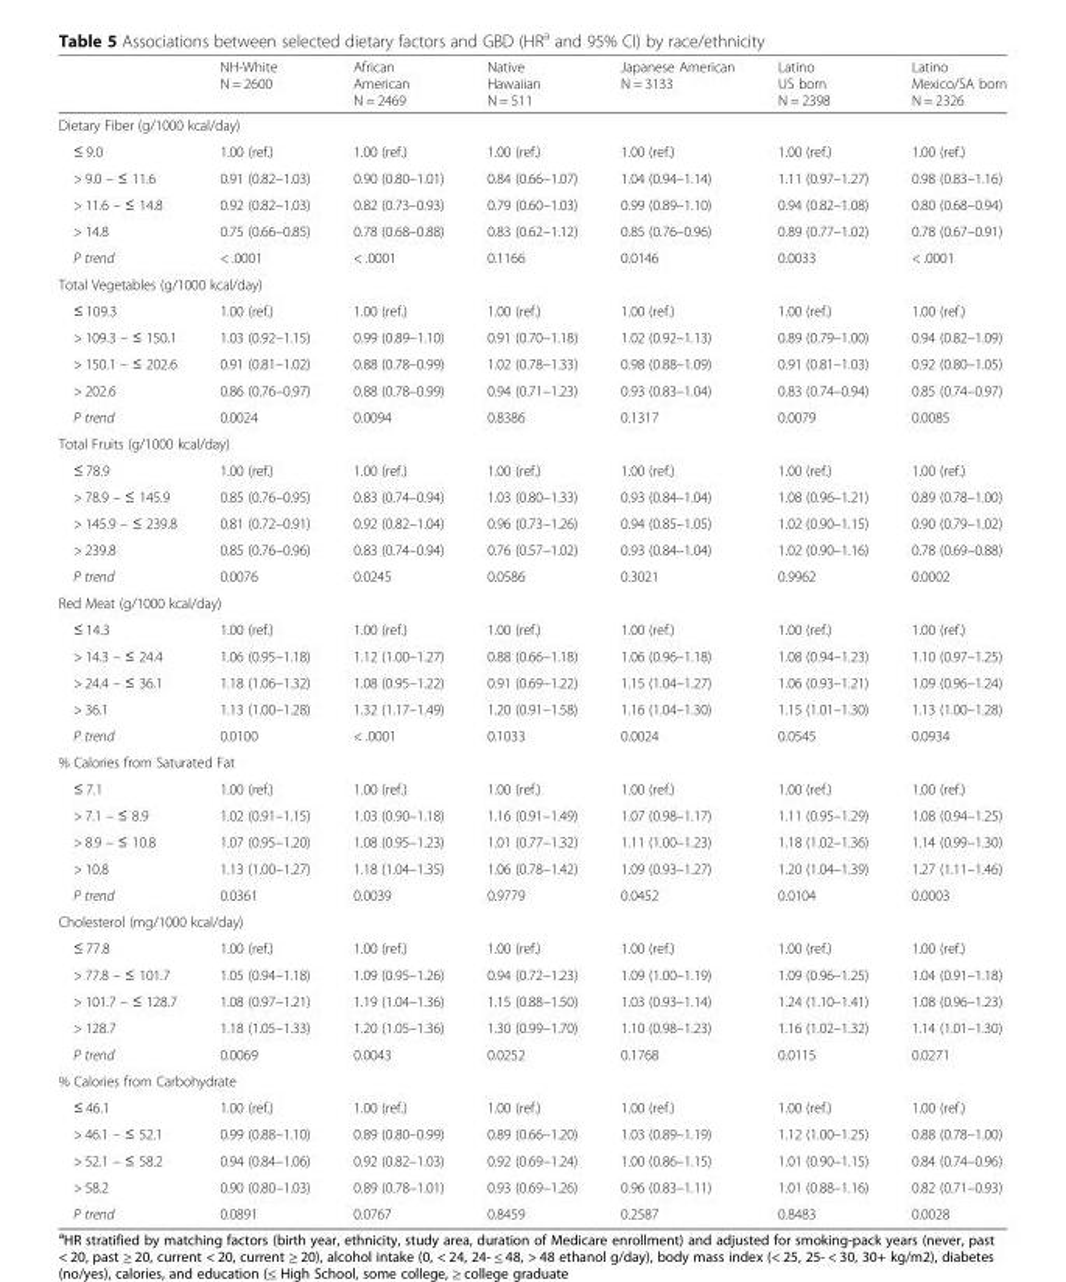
<table><thead><tr><td></td><td>NH-White N = 2600</td><td>African American N = 2469</td><td>Native Hawaiian N = 511</td><td>Japanese American N = 3133</td><td>Latino US born N = 2398</td><td>Latino Mexico/SA born N = 2326</td></tr></thead><tbody><tr><td colspan="7">Dietary Fiber (g/1000 kcal/day)</td></tr><tr><td>≤ 9.0</td><td>1.00 (ref.)</td><td>1.00 (ref.)</td><td>1.00 (ref.)</td><td>1.00 (ref.)</td><td>1.00 (ref.)</td><td>1.00 (ref.)</td></tr><tr><td>&gt; 9.0 – ≤ 11.6</td><td>0.91 (0.82–1.03)</td><td>0.90 (0.80–1.01)</td><td>0.84 (0.66–1.07)</td><td>1.04 (0.94–1.14)</td><td>1.11 (0.97–1.27)</td><td>0.98 (0.83–1.16)</td></tr><tr><td>&gt; 11.6 – ≤ 14.8</td><td>0.92 (0.82–1.03)</td><td>0.82 (0.73–0.93)</td><td>0.79 (0.60–1.03)</td><td>0.99 (0.89–1.10)</td><td>0.94 (0.82–1.08)</td><td>0.80 (0.68–0.94)</td></tr><tr><td>&gt; 14.8</td><td>0.75 (0.66–0.85)</td><td>0.78 (0.68–0.88)</td><td>0.83 (0.62–1.12)</td><td>0.85 (0.76–0.96)</td><td>0.89 (0.77–1.02)</td><td>0.78 (0.67–0.91)</td></tr><tr><td>P trend</td><td>&lt; .0001</td><td>&lt; .0001</td><td>0.1166</td><td>0.0146</td><td>0.0033</td><td>&lt; .0001</td></tr><tr><td colspan="7">Total Vegetables (g/1000 kcal/day)</td></tr><tr><td>≤ 109.3</td><td>1.00 (ref.)</td><td>1.00 (ref.)</td><td>1.00 (ref.)</td><td>1.00 (ref.)</td><td>1.00 (ref.)</td><td>1.00 (ref.)</td></tr><tr><td>&gt; 109.3 – ≤ 150.1</td><td>1.03 (0.92–1.15)</td><td>0.99 (0.89–1.10)</td><td>0.91 (0.70–1.18)</td><td>1.02 (0.92–1.13)</td><td>0.89 (0.79–1.00)</td><td>0.94 (0.82–1.09)</td></tr><tr><td>&gt; 150.1 – ≤ 202.6</td><td>0.91 (0.81–1.02)</td><td>0.88 (0.78–0.99)</td><td>1.02 (0.78–1.33)</td><td>0.98 (0.88–1.09)</td><td>0.91 (0.81–1.03)</td><td>0.92 (0.80–1.05)</td></tr><tr><td>&gt; 202.6</td><td>0.86 (0.76–0.97)</td><td>0.88 (0.78–0.99)</td><td>0.94 (0.71–1.23)</td><td>0.93 (0.83–1.04)</td><td>0.83 (0.74–0.94)</td><td>0.85 (0.74–0.97)</td></tr><tr><td>P trend</td><td>0.0024</td><td>0.0094</td><td>0.8386</td><td>0.1317</td><td>0.0079</td><td>0.0085</td></tr><tr><td colspan="7">Total Fruits (g/1000 kcal/day)</td></tr><tr><td>≤ 78.9</td><td>1.00 (ref.)</td><td>1.00 (ref.)</td><td>1.00 (ref.)</td><td>1.00 (ref.)</td><td>1.00 (ref.)</td><td>1.00 (ref.)</td></tr><tr><td>&gt; 78.9 – ≤ 145.9</td><td>0.85 (0.76–0.95)</td><td>0.83 (0.74–0.94)</td><td>1.03 (0.80–1.33)</td><td>0.93 (0.84–1.04)</td><td>1.08 (0.96–1.21)</td><td>0.89 (0.78–1.00)</td></tr><tr><td>&gt; 145.9 – ≤ 239.8</td><td>0.81 (0.72–0.91)</td><td>0.92 (0.82–1.04)</td><td>0.96 (0.73–1.26)</td><td>0.94 (0.85–1.05)</td><td>1.02 (0.90–1.15)</td><td>0.90 (0.79–1.02)</td></tr><tr><td>&gt; 239.8</td><td>0.85 (0.76–0.96)</td><td>0.83 (0.74–0.94)</td><td>0.76 (0.57–1.02)</td><td>0.93 (0.84–1.04)</td><td>1.02 (0.90–1.16)</td><td>0.78 (0.69–0.88)</td></tr><tr><td>P trend</td><td>0.0076</td><td>0.0245</td><td>0.0586</td><td>0.3021</td><td>0.9962</td><td>0.0002</td></tr><tr><td colspan="7">Red Meat (g/1000 kcal/day)</td></tr><tr><td>≤ 14.3</td><td>1.00 (ref.)</td><td>1.00 (ref.)</td><td>1.00 (ref.)</td><td>1.00 (ref.)</td><td>1.00 (ref.)</td><td>1.00 (ref.)</td></tr><tr><td>&gt; 14.3 – ≤ 24.4</td><td>1.06 (0.95–1.18)</td><td>1.12 (1.00–1.27)</td><td>0.88 (0.66–1.18)</td><td>1.06 (0.96–1.18)</td><td>1.08 (0.94–1.23)</td><td>1.10 (0.97–1.25)</td></tr><tr><td>&gt; 24.4 – ≤ 36.1</td><td>1.18 (1.06–1.32)</td><td>1.08 (0.95–1.22)</td><td>0.91 (0.69–1.22)</td><td>1.15 (1.04–1.27)</td><td>1.06 (0.93–1.21)</td><td>1.09 (0.96–1.24)</td></tr><tr><td>&gt; 36.1</td><td>1.13 (1.00–1.28)</td><td>1.32 (1.17–1.49)</td><td>1.20 (0.91–1.58)</td><td>1.16 (1.04–1.30)</td><td>1.15 (1.01–1.30)</td><td>1.13 (1.00–1.28)</td></tr><tr><td>P trend</td><td>0.0100</td><td>&lt; .0001</td><td>0.1033</td><td>0.0024</td><td>0.0545</td><td>0.0934</td></tr><tr><td colspan="7">% Calories from Saturated Fat</td></tr><tr><td>≤ 7.1</td><td>1.00 (ref.)</td><td>1.00 (ref.)</td><td>1.00 (ref.)</td><td>1.00 (ref.)</td><td>1.00 (ref.)</td><td>1.00 (ref.)</td></tr><tr><td>&gt; 7.1 – ≤ 8.9</td><td>1.02 (0.91–1.15)</td><td>1.03 (0.90–1.18)</td><td>1.16 (0.91–1.49)</td><td>1.07 (0.98–1.17)</td><td>1.11 (0.95–1.29)</td><td>1.08 (0.94–1.25)</td></tr><tr><td>&gt; 8.9 – ≤ 10.8</td><td>1.07 (0.95–1.20)</td><td>1.08 (0.95–1.23)</td><td>1.01 (0.77–1.32)</td><td>1.11 (1.00–1.23)</td><td>1.18 (1.02–1.36)</td><td>1.14 (0.99–1.30)</td></tr><tr><td>&gt; 10.8</td><td>1.13 (1.00–1.27)</td><td>1.18 (1.04–1.35)</td><td>1.06 (0.78–1.42)</td><td>1.09 (0.93–1.27)</td><td>1.20 (1.04–1.39)</td><td>1.27 (1.11–1.46)</td></tr><tr><td>P trend</td><td>0.0361</td><td>0.0039</td><td>0.9779</td><td>0.0452</td><td>0.0104</td><td>0.0003</td></tr><tr><td colspan="7">Cholesterol (mg/1000 kcal/day)</td></tr><tr><td>≤ 77.8</td><td>1.00 (ref.)</td><td>1.00 (ref.)</td><td>1.00 (ref.)</td><td>1.00 (ref.)</td><td>1.00 (ref.)</td><td>1.00 (ref.)</td></tr><tr><td>&gt; 77.8 – ≤ 101.7</td><td>1.05 (0.94–1.18)</td><td>1.09 (0.95–1.26)</td><td>0.94 (0.72–1.23)</td><td>1.09 (1.00–1.19)</td><td>1.09 (0.96–1.25)</td><td>1.04 (0.91–1.18)</td></tr><tr><td>&gt; 101.7 – ≤ 128.7</td><td>1.08 (0.97–1.21)</td><td>1.19 (1.04–1.36)</td><td>1.15 (0.88–1.50)</td><td>1.03 (0.93–1.14)</td><td>1.24 (1.10–1.41)</td><td>1.08 (0.96–1.23)</td></tr><tr><td>&gt; 128.7</td><td>1.18 (1.05–1.33)</td><td>1.20 (1.05–1.36)</td><td>1.30 (0.99–1.70)</td><td>1.10 (0.98–1.23)</td><td>1.16 (1.02–1.32)</td><td>1.14 (1.01–1.30)</td></tr><tr><td>P trend</td><td>0.0069</td><td>0.0043</td><td>0.0252</td><td>0.1768</td><td>0.0115</td><td>0.0271</td></tr><tr><td colspan="7">% Calories from Carbohydrate</td></tr><tr><td>≤ 46.1</td><td>1.00 (ref.)</td><td>1.00 (ref.)</td><td>1.00 (ref.)</td><td>1.00 (ref.)</td><td>1.00 (ref.)</td><td>1.00 (ref.)</td></tr><tr><td>&gt; 46.1 – ≤ 52.1</td><td>0.99 (0.88–1.10)</td><td>0.89 (0.80–0.99)</td><td>0.89 (0.66–1.20)</td><td>1.03 (0.89–1.19)</td><td>1.12 (1.00–1.25)</td><td>0.88 (0.78–1.00)</td></tr><tr><td>&gt; 52.1 – ≤ 58.2</td><td>0.94 (0.84–1.06)</td><td>0.92 (0.82–1.03)</td><td>0.92 (0.69–1.24)</td><td>1.00 (0.86–1.15)</td><td>1.01 (0.90–1.15)</td><td>0.84 (0.74–0.96)</td></tr><tr><td>&gt; 58.2</td><td>0.90 (0.80–1.03)</td><td>0.89 (0.78–1.01)</td><td>0.93 (0.69–1.26)</td><td>0.96 (0.83–1.11)</td><td>1.01 (0.88–1.16)</td><td>0.82 (0.71–0.93)</td></tr><tr><td>P trend</td><td>0.0891</td><td>0.0767</td><td>0.8459</td><td>0.2587</td><td>0.8483</td><td>0.0028</td></tr></tbody></table>